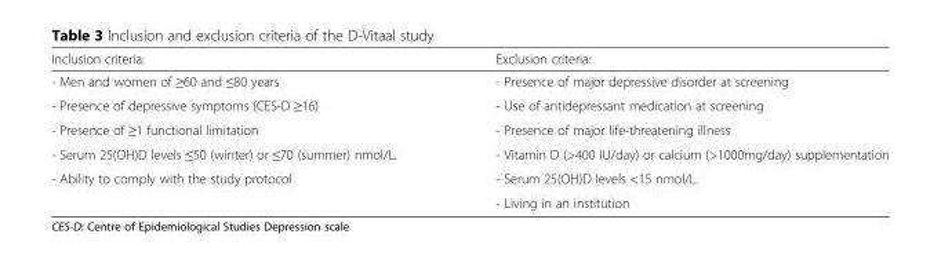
<table><thead><tr><td>Inclusion criteria:</td><td>Exclusion criteria:</td></tr></thead><tbody><tr><td>- Men and women of ≥60 and ≤80 years</td><td>- Presence of major depressive disorder at screening</td></tr><tr><td>- Presence of depressive symptoms (CES-D ≥16)</td><td>- Use of antidepressant medication at screening</td></tr><tr><td>- Presence of ≥1 functional limitation</td><td>- Presence of major life-threatening illness</td></tr><tr><td>- Serum 25(OH)D levels ≤50 (winter) or ≤70 (summer) nmol/L.</td><td>- Vitamin D (&gt;400 IU/day) or calcium (&gt;1000mg/day) supplementation</td></tr><tr><td rowspan="2">- Ability to comply with the study protocol</td><td>- Serum 25(OH)D levels &lt;15 nmol/L.</td></tr><tr><td>- Living in an institution</td></tr></tbody></table>